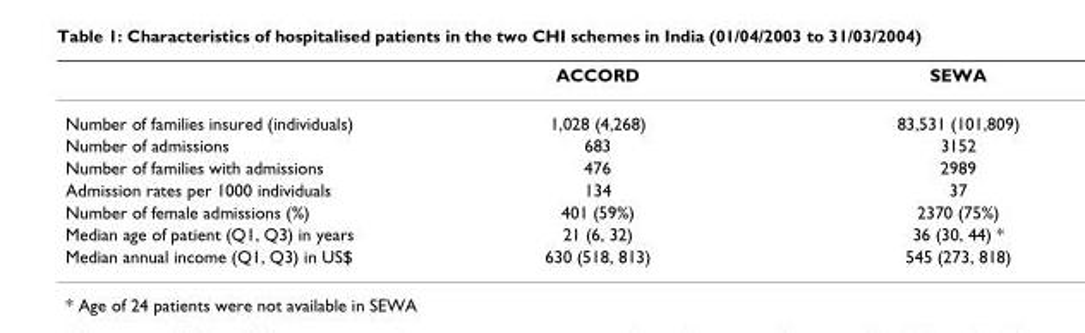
<table><thead><tr><td></td><td>ACCORD</td><td>SEWA</td></tr></thead><tbody><tr><td>Number of families insured (individuals)</td><td>1,028 (4,268)</td><td>83,531 (101,809)</td></tr><tr><td>Number of admissions</td><td>683</td><td>3152</td></tr><tr><td>Number of families with admissions</td><td>476</td><td>2989</td></tr><tr><td>Admission rates per 1000 individuals</td><td>134</td><td>37</td></tr><tr><td>Number of female admissions (%)</td><td>401 (59%)</td><td>2370 (75%)</td></tr><tr><td>Median age of patient (Q1, Q3) in years</td><td>21 (6, 32)</td><td>36 (30, 44) *</td></tr><tr><td>Median annual income (Q1, Q3) in US$</td><td>630 (518, 813)</td><td>545 (273, 818)</td></tr></tbody></table>